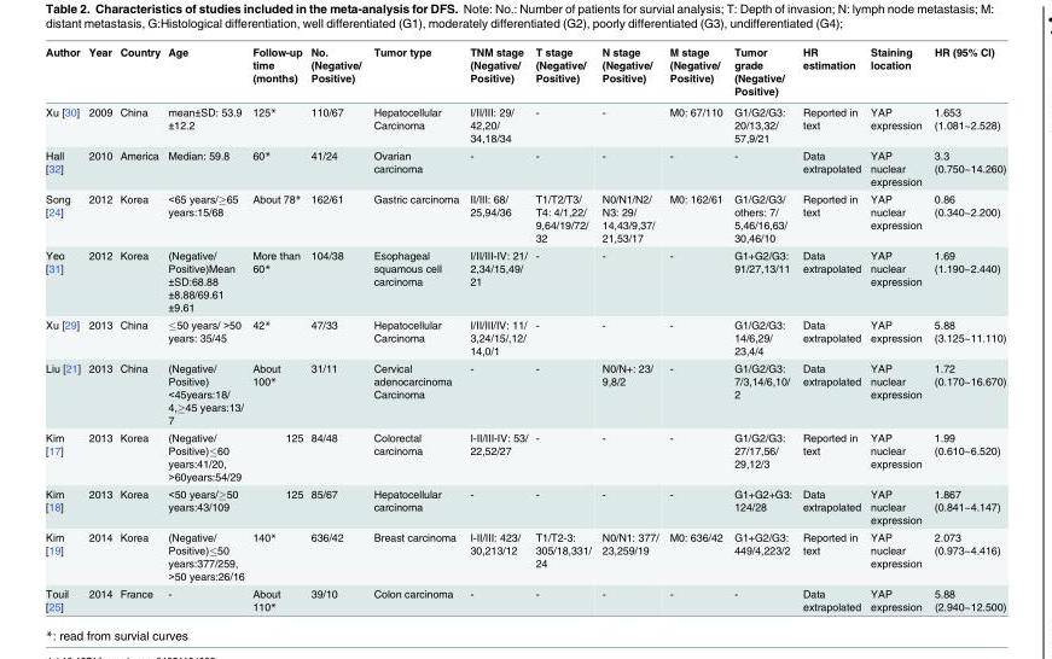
<table><thead><tr><td>Author</td><td>Year</td><td>Country</td><td>Age</td><td>Follow-up time (months)</td><td>No. (Negative/ Positive)</td><td>Tumor type</td><td>TNM stage (Negative/ Positive)</td><td>T stage (Negative/ Positive)</td><td>N stage (Negative/ Positive)</td><td>M stage (Negative/ Positive)</td><td>Tumor grade (Negative/ Positive)</td><td>HR estimation</td><td>Staining location</td><td>HR (95% CI)</td></tr></thead><tbody><tr><td>Xu [30]</td><td>2009</td><td>China</td><td>mean±SD: 53.9 ±12.2</td><td>125*</td><td>110/67</td><td>Hepatocellular Carcinoma</td><td>I/II/III: 29/ 42,20/ 34,18/34</td><td>-</td><td>-</td><td>M0: 67/110</td><td>G1/G2/G3: 20/13,32/ 57,9/21</td><td>Reported in text</td><td>YAP expression</td><td>1.653 (1.081~2.528)</td></tr><tr><td>Hall [32]</td><td>2010</td><td>America</td><td>Median: 59.8</td><td>60*</td><td>41/24</td><td>Ovarian carcinoma</td><td>-</td><td>-</td><td>-</td><td>-</td><td>-</td><td>Data extrapolated</td><td>YAP nuclear expression</td><td>3.3 (0.750~14.260)</td></tr><tr><td>Song [24]</td><td>2012</td><td>Korea</td><td>&lt;65 years/≥65 years:15/68</td><td>About 78*</td><td>162/61</td><td>Gastric carcinoma</td><td>II/III: 68/ 25,94/36</td><td>T1/T2/T3/ T4: 4/1,22/ 9,64/19/72/ 32</td><td>N0/N1/N2/ N3: 29/ 14,43/9,37/ 21,53/17</td><td>M0: 162/61</td><td>G1/G2/G3/ others: 7/ 5,46/16,63/ 30,46/10</td><td>Reported in text</td><td>YAP nuclear expression</td><td>0.86 (0.340~2.200)</td></tr><tr><td>Yeo [31]</td><td>2012</td><td>Korea</td><td>(Negative/ Positive)Mean ±SD:68.88 ±8.88/69.61 ±9.61</td><td>More than 60*</td><td>104/38</td><td>Esophageal squamous cell carcinoma</td><td>I/II/III-IV: 21/ 2,34/15,49/ 21</td><td>-</td><td>-</td><td>-</td><td>G1+G2/G3: 91/27,13/11</td><td>Data extrapolated</td><td>YAP nuclear expression</td><td>1.69 (1.190~2.440)</td></tr><tr><td>Xu [29]</td><td>2013</td><td>China</td><td>≤50 years/ &gt;50 years: 35/45</td><td>42*</td><td>47/33</td><td>Hepatocellular Carcinoma</td><td>I/II/III/IV: 11/ 3,24/15/,12/ 14,0/1</td><td>-</td><td>-</td><td>-</td><td>G1/G2/G3: 14/6,29/ 23,4/4</td><td>Data extrapolated</td><td>YAP expression</td><td>5.88 (3.125~11.110)</td></tr><tr><td>Liu [21]</td><td>2013</td><td>China</td><td>(Negative/ Positive) &lt;45years:18/ 4,≥45 years:13/ 7</td><td>About 100*</td><td>31/11</td><td>Cervical adenocarcinoma Carcinoma</td><td>-</td><td>-</td><td>N0/N+: 23/ 9,8/2</td><td>-</td><td>G1/G2/G3: 7/3,14/6,10/ 2</td><td>Data extrapolated</td><td>YAP nuclear expression</td><td>1.72 (0.170~16.670)</td></tr><tr><td>Kim [17]</td><td>2013</td><td>Korea</td><td>(Negative/ Positive)≤60 years:41/20, &gt;60years:54/29</td><td>125</td><td>84/48</td><td>Colorectal carcinoma</td><td>I-II/III-IV: 53/ 22,52/27</td><td>-</td><td>-</td><td>-</td><td>G1/G2/G3: 27/17,56/ 29,12/3</td><td>Reported in text</td><td>YAP nuclear expression</td><td>1.99 (0.610~6.520)</td></tr><tr><td>Kim [18]</td><td>2013</td><td>Korea</td><td>&lt;50 years/≥50 years:43/109</td><td>125</td><td>85/67</td><td>Hepatocellular carcinoma</td><td>-</td><td>-</td><td>-</td><td>-</td><td>G1+G2+G3: 124/28</td><td>Data extrapolated</td><td>YAP nuclear expression</td><td>1.867 (0.841~4.147)</td></tr><tr><td>Kim [19]</td><td>2014</td><td>Korea</td><td>(Negative/ Positive)≤50 years:377/259, &gt;50 years:26/16</td><td>140*</td><td>636/42</td><td>Breast carcinoma</td><td>I-II/III: 423/ 30,213/12</td><td>T1/T2-3: 305/18,331/ 24</td><td>N0/N1: 377/ 23,259/19</td><td>M0: 636/42</td><td>G1+G2/G3: 449/4,223/2</td><td>Reported in text</td><td>YAP nuclear expression</td><td>2.073 (0.973~4.416)</td></tr><tr><td>Touil [25]</td><td>2014</td><td>France</td><td>-</td><td>About 110*</td><td>39/10</td><td>Colon carcinoma</td><td>-</td><td>-</td><td>-</td><td>-</td><td>-</td><td>Data extrapolated</td><td>YAP expression</td><td>5.88 (2.940~12.500)</td></tr></tbody></table>